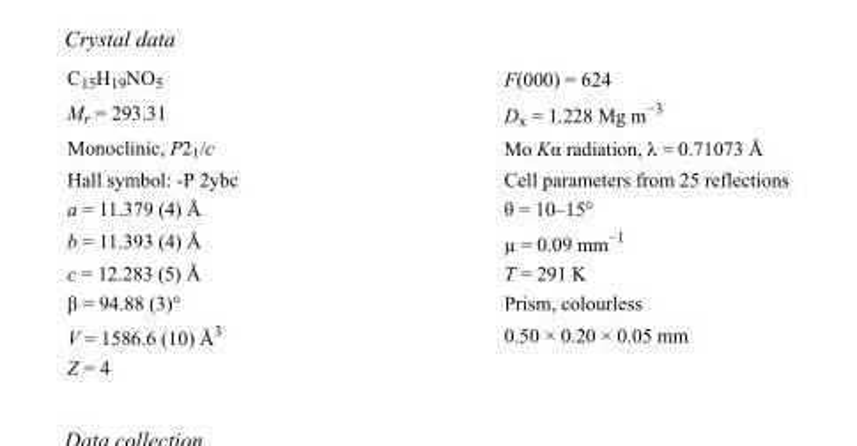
<table><tbody><tr><td>C<sub>15</sub>H<sub>19</sub>NO<sub>5</sub></td><td>F(000) = 624</td></tr><tr><td>M<sub>r</sub> = 293.31</td><td>D<sub>x</sub> = 1.228 Mg m<sup>−3</sup></td></tr><tr><td>Monoclinic, P2<sub>1</sub>/c</td><td>Mo Kα radiation, λ = 0.71073 Å</td></tr><tr><td>Hall symbol: -P 2ybc</td><td>Cell parameters from 25 reflections</td></tr><tr><td>a = 11.379 (4) Å</td><td>θ = 10–15°</td></tr><tr><td>b = 11.393 (4) Å</td><td>µ = 0.09 mm<sup>−1</sup></td></tr><tr><td>c = 12.283 (5) Å</td><td>T = 291 K</td></tr><tr><td>β = 94.88 (3)°</td><td>Prism, colourless</td></tr><tr><td>V = 1586.6 (10) Å<sup>3</sup></td><td>0.50 × 0.20 × 0.05 mm</td></tr><tr><td>Z = 4</td><td></td></tr></tbody></table>